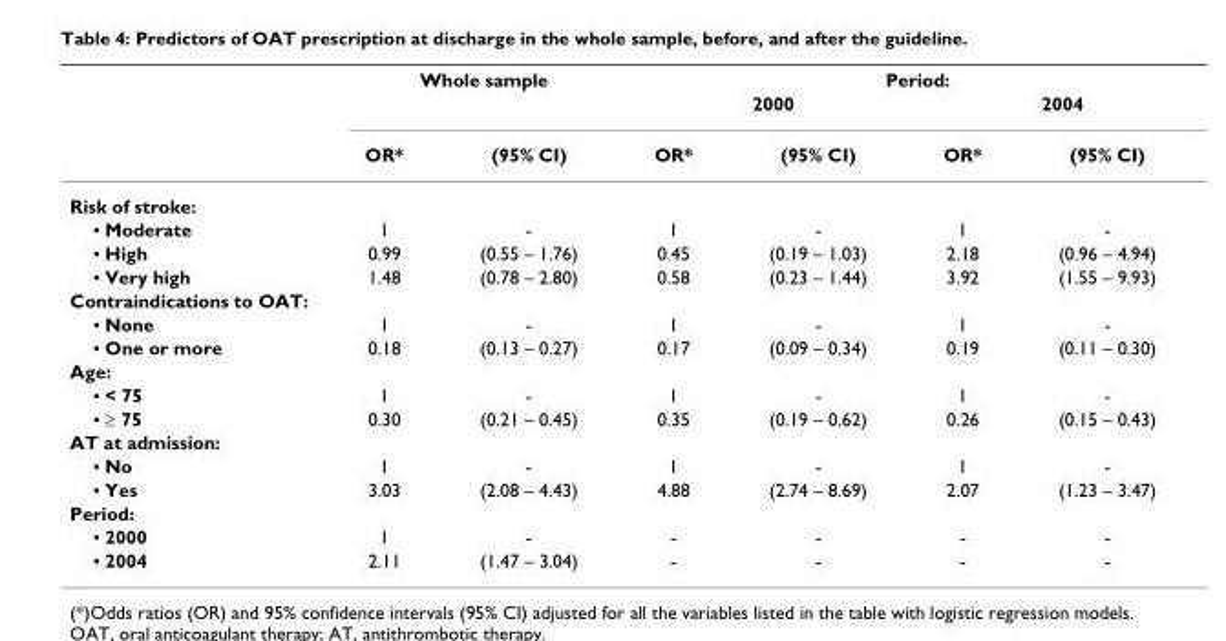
<table><thead><tr><td rowspan="3"></td><td colspan="2">Whole sample</td><td colspan="4">Period:</td></tr><tr><td rowspan="2">OR*</td><td rowspan="2">(95% CI)</td><td colspan="2">2000</td><td colspan="2">2004</td></tr><tr><td>OR*</td><td>(95% CI)</td><td>OR*</td><td>(95% CI)</td></tr></thead><tbody><tr><td colspan="7">Risk of stroke:</td></tr><tr><td>▪ Moderate</td><td>1</td><td>-</td><td>1</td><td>-</td><td>1</td><td>-</td></tr><tr><td>▪ High</td><td>0.99</td><td>(0.55 – 1.76)</td><td>0.45</td><td>(0.19 – 1.03)</td><td>2.18</td><td>(0.96 – 4.94)</td></tr><tr><td>▪ Very high</td><td>1.48</td><td>(0.78 – 2.80)</td><td>0.58</td><td>(0.23 – 1.44)</td><td>3.92</td><td>(1.55 – 9.93)</td></tr><tr><td colspan="7">Contraindications to OAT:</td></tr><tr><td>▪ None</td><td>1</td><td>-</td><td>1</td><td>-</td><td>1</td><td>-</td></tr><tr><td>▪ One or more</td><td>0.18</td><td>(0.13 – 0.27)</td><td>0.17</td><td>(0.09 – 0.34)</td><td>0.19</td><td>(0.11 – 0.30)</td></tr><tr><td colspan="7">Age:</td></tr><tr><td>▪ &lt; 75</td><td>1</td><td>-</td><td>1</td><td>-</td><td>1</td><td>-</td></tr><tr><td>▪ ≥ 75</td><td>0.30</td><td>(0.21 – 0.45)</td><td>0.35</td><td>(0.19 – 0.62)</td><td>0.26</td><td>(0.15 – 0.43)</td></tr><tr><td colspan="7">AT at admission:</td></tr><tr><td>▪ No</td><td>1</td><td>-</td><td>1</td><td>-</td><td>1</td><td>-</td></tr><tr><td>▪ Yes</td><td>3.03</td><td>(2.08 – 4.43)</td><td>4.88</td><td>(2.74 – 8.69)</td><td>2.07</td><td>(1.23 – 3.47)</td></tr><tr><td colspan="7">Period:</td></tr><tr><td>▪ 2000</td><td>1</td><td>-</td><td>-</td><td>-</td><td>-</td><td>-</td></tr><tr><td>▪ 2004</td><td>2.11</td><td>(1.47 – 3.04)</td><td>-</td><td>-</td><td>-</td><td>-</td></tr></tbody></table>